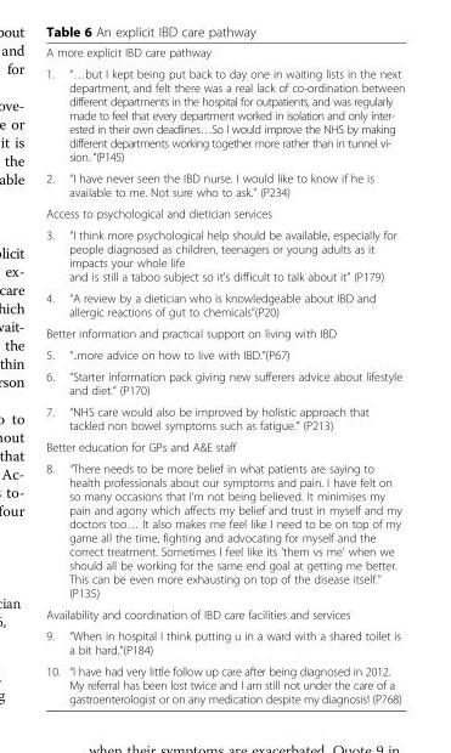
<table><tbody><tr><td colspan="2">A more explicit IBD care pathway</td></tr><tr><td>1.</td><td>“…but I kept being put back to day one in waiting lists in the next department, and felt there was a real lack of co-ordination between different departments in the hospital for outpatients, and was regularly made to feel that every department worked in isolation and only inter- ested in their own deadlines…So I would improve the NHS by making different departments working together more rather than in tunnel vi- sion. “(P145)</td></tr><tr><td>2.</td><td>“I have never seen the IBD nurse. I would like to know if he is available to me. Not sure who to ask.” (P234)</td></tr><tr><td colspan="2">Access to psychological and dietician services</td></tr><tr><td>3.</td><td>“I think more psychological help should be available, especially for people diagnosed as children, teenagers or young adults as it impacts your whole life and is still a taboo subject so it&#x27;s difficult to talk about it” (P179)</td></tr><tr><td>4.</td><td>“A review by a dietician who is knowledgeable about IBD and allergic reactions of gut to chemicals”(P20)</td></tr><tr><td colspan="2">Better information and practical support on living with IBD</td></tr><tr><td>5.</td><td>“..more advice on how to live with IBD.”(P67)</td></tr><tr><td>6.</td><td>“Starter information pack giving new sufferers advice about lifestyle and diet.” (P170)</td></tr><tr><td>7.</td><td>“NHS care would also be improved by holistic approach that tackled non bowel symptoms such as fatigue.” (P213)</td></tr><tr><td colspan="2">Better education for GPs and A&amp;E staff</td></tr><tr><td>8.</td><td>“There needs to be more belief in what patients are saying to health professionals about our symptoms and pain. I have felt on so many occasions that I&#x27;m not being believed. It minimises my pain and agony which affects my belief and trust in myself and my doctors too… It also makes me feel like I need to be on top of my game all the time, fighting and advocating for myself and the correct treatment. Sometimes I feel like its &#x27;them vs me&#x27; when we should all be working for the same end goal at getting me better. This can be even more exhausting on top of the disease itself.” (P135)</td></tr><tr><td colspan="2">Availability and coordination of IBD care facilities and services</td></tr><tr><td>9.</td><td>“When in hospital I think putting u in a ward with a shared toilet is a bit hard.”(P184)</td></tr><tr><td>10.</td><td>“I have had very little follow up care after being diagnosed in 2012. My referral has been lost twice and I am still not under the care of a gastroenterologist or on any medication despite my diagnosis! (P768)</td></tr></tbody></table>